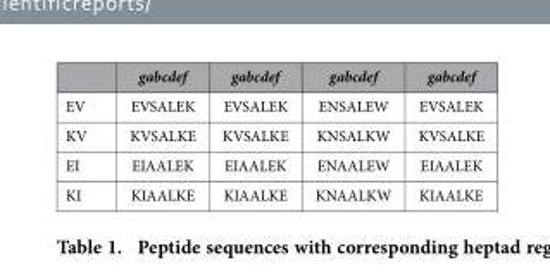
<table><thead><tr><td></td><td>gabcdef</td><td>gabcdef</td><td>gabcdef</td><td>gabcdef</td></tr></thead><tbody><tr><td>EV</td><td>EVSALEK</td><td>EVSALEK</td><td>ENSALEW</td><td>EVSALEK</td></tr><tr><td>KV</td><td>KVSALKE</td><td>KVSALKE</td><td>KNSALKW</td><td>KVSALKE</td></tr><tr><td>EI</td><td>EIAALEK</td><td>EIAALEK</td><td>ENAALEW</td><td>EIAALEK</td></tr><tr><td>KI</td><td>KIAALKE</td><td>KIAALKE</td><td>KNAALKW</td><td>KIAALKE</td></tr></tbody></table>